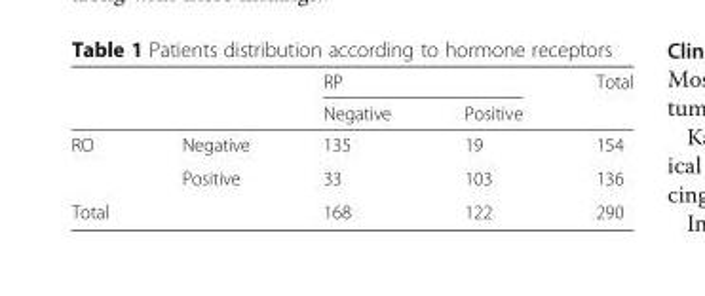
<table><thead><tr><td rowspan="2"></td><td rowspan="2"></td><td colspan="2">RP</td><td rowspan="2">Total</td></tr><tr><td>Negative</td><td>Positive</td></tr></thead><tbody><tr><td rowspan="2">RO</td><td>Negative</td><td>135</td><td>19</td><td>154</td></tr><tr><td>Positive</td><td>33</td><td>103</td><td>136</td></tr><tr><td>Total</td><td></td><td>168</td><td>122</td><td>290</td></tr></tbody></table>